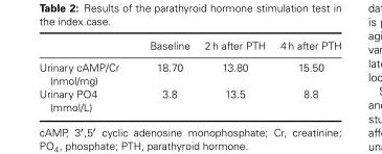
<table><thead><tr><td></td><td>Baseline</td><td>2 h after PTH</td><td>4 h after PTH</td></tr></thead><tbody><tr><td>Urinary cAMP/Cr (nmol/mg)</td><td>18.70</td><td>13.80</td><td>15.50</td></tr><tr><td>Urinary PO4 (mmol/L)</td><td>3.8</td><td>13.5</td><td>8.8</td></tr></tbody></table>